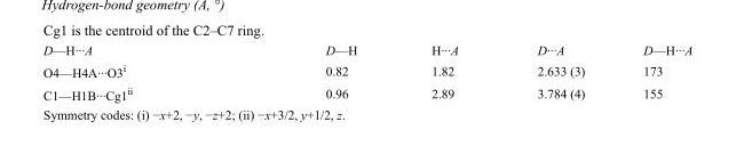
<table><tbody><tr><td>D—H···A</td><td>D—H</td><td>H···A</td><td>D···A</td><td>D—H···A</td></tr><tr><td>O4—H4A···O3<sup>i</sup></td><td>0.82</td><td>1.82</td><td>2.633 (3)</td><td>173</td></tr><tr><td>C1—H1B···Cg1<sup>ii</sup></td><td>0.96</td><td>2.89</td><td>3.784 (4)</td><td>155</td></tr></tbody></table>